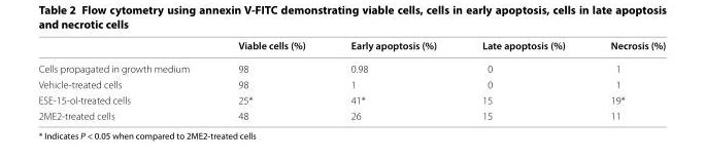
<table><thead><tr><td></td><td>Viable cells (%)</td><td>Early apoptosis (%)</td><td>Late apoptosis (%)</td><td>Necrosis (%)</td></tr></thead><tbody><tr><td>Cells propagated in growth medium</td><td>98</td><td>0.98</td><td>0</td><td>1</td></tr><tr><td>Vehicle-treated cells</td><td>98</td><td>1</td><td>0</td><td>1</td></tr><tr><td>ESE-15-ol-treated cells</td><td>25*</td><td>41*</td><td>15</td><td>19*</td></tr><tr><td>2ME2-treated cells</td><td>48</td><td>26</td><td>15</td><td>11</td></tr></tbody></table>